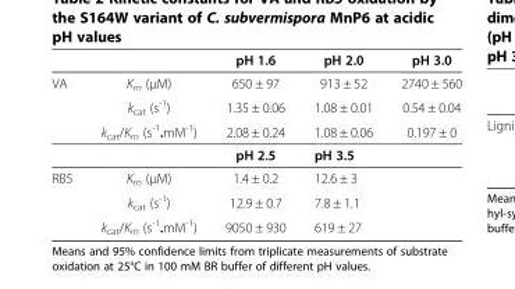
<table><thead><tr><td></td><td></td><td>pH 1.6</td><td>pH 2.0</td><td>pH 3.0</td></tr></thead><tbody><tr><td rowspan="4">VA</td><td>K<sub>m</sub> (μM)</td><td>650 ± 97</td><td>913 ± 52</td><td>2740 ± 560</td></tr><tr><td>k<sub>cat</sub> (s<sup>-1</sup>)</td><td>1.35 ± 0.06</td><td>1.08 ± 0.01</td><td>0.54 ± 0.04</td></tr><tr><td>k<sub>cat</sub>/K<sub>m</sub> (s<sup>-1</sup>.mM<sup>-1</sup>)</td><td>2.08 ± 0.24</td><td>1.08 ± 0.06</td><td>0.197 ± 0</td></tr><tr><td></td><td>pH 2.5</td><td colspan="2">pH 3.5</td></tr><tr><td rowspan="3">RB5</td><td>K<sub>m</sub> (μM)</td><td>1.4 ± 0.2</td><td colspan="2">12.6 ± 3</td></tr><tr><td>k<sub>cat</sub> (s<sup>-1</sup>)</td><td>12.9 ± 0.7</td><td colspan="2">7.8 ± 1.1</td></tr><tr><td>k<sub>cat</sub>/K<sub>m</sub> (s<sup>-1</sup>.mM<sup>-1</sup>)</td><td>9050 ± 930</td><td colspan="2">619 ± 27</td></tr></tbody></table>